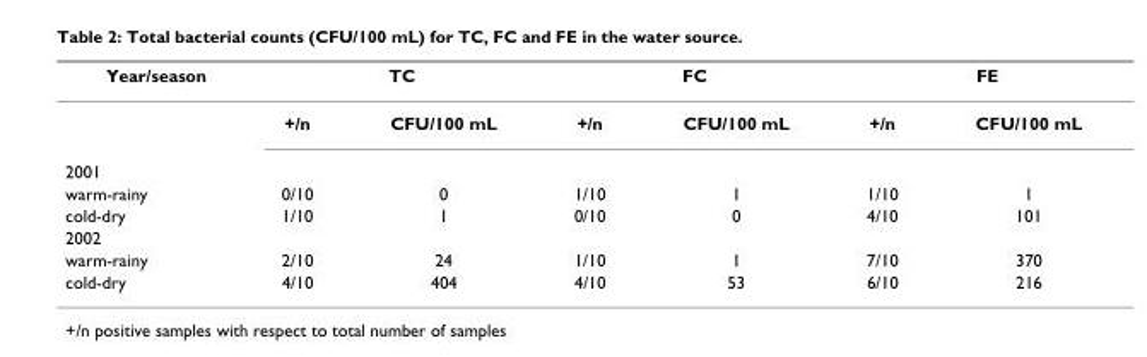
<table><thead><tr><td rowspan="2">Year/season</td><td colspan="2">TC</td><td colspan="2">FC</td><td colspan="2">FE</td></tr><tr><td>+/n</td><td>CFU/100 mL</td><td>+/n</td><td>CFU/100 mL</td><td>+/n</td><td>CFU/100 mL</td></tr></thead><tbody><tr><td colspan="7">2001</td></tr><tr><td>warm-rainy</td><td>0/10</td><td>0</td><td>1/10</td><td>1</td><td>1/10</td><td>1</td></tr><tr><td>cold-dry</td><td>1/10</td><td>1</td><td>0/10</td><td>0</td><td>4/10</td><td>101</td></tr><tr><td colspan="7">2002</td></tr><tr><td>warm-rainy</td><td>2/10</td><td>24</td><td>1/10</td><td>1</td><td>7/10</td><td>370</td></tr><tr><td>cold-dry</td><td>4/10</td><td>404</td><td>4/10</td><td>53</td><td>6/10</td><td>216</td></tr></tbody></table>